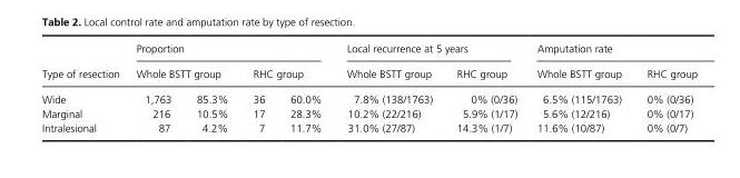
<table><thead><tr><td rowspan="3">Type of resection Wide</td><td colspan="4">Proportion</td><td colspan="2">Local recurrence at 5 years</td><td colspan="2">Amputation rate</td></tr><tr><td colspan="2">Whole BSTT group</td><td colspan="2">RHC group</td><td rowspan="2">Whole BSTT group 7.8% (138/1763)</td><td rowspan="2">RHC group 0% (0/36)</td><td rowspan="2">Whole BSTT group 6.5% (115/1763)</td><td rowspan="2">RHC group 0% (0/36)</td></tr><tr><td>1,763</td><td>85.3%</td><td>36</td><td>60.0%</td></tr></thead><tbody><tr><td>Marginal</td><td>216</td><td>10.5%</td><td>17</td><td>28.3%</td><td>10.2% (22/216)</td><td>5.9% (1/17)</td><td>5.6% (12/216)</td><td>0% (0/17)</td></tr><tr><td>Intralesional</td><td>87</td><td>4.2%</td><td>7</td><td>11.7%</td><td>31.0% (27/87)</td><td>14.3% (1/7)</td><td>11.6% (10/87)</td><td>0% (0/7)</td></tr></tbody></table>